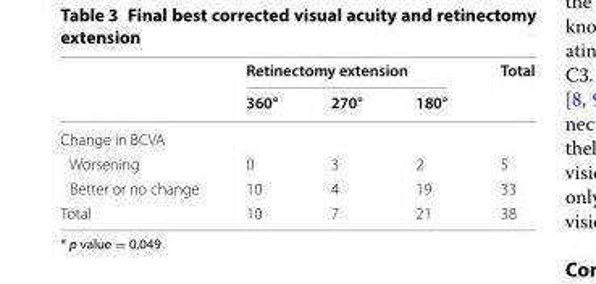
<table><thead><tr><td rowspan="2"></td><td colspan="3">Retinectomy extension</td><td rowspan="2">Total</td></tr><tr><td>360°</td><td>270°</td><td>180°</td></tr></thead><tbody><tr><td colspan="5">Change in BCVA</td></tr><tr><td>Worsening</td><td>0</td><td>3</td><td>2</td><td>5</td></tr><tr><td>Better or no change</td><td>10</td><td>4</td><td>19</td><td>33</td></tr><tr><td>Total</td><td>10</td><td>7</td><td>21</td><td>38</td></tr></tbody></table>